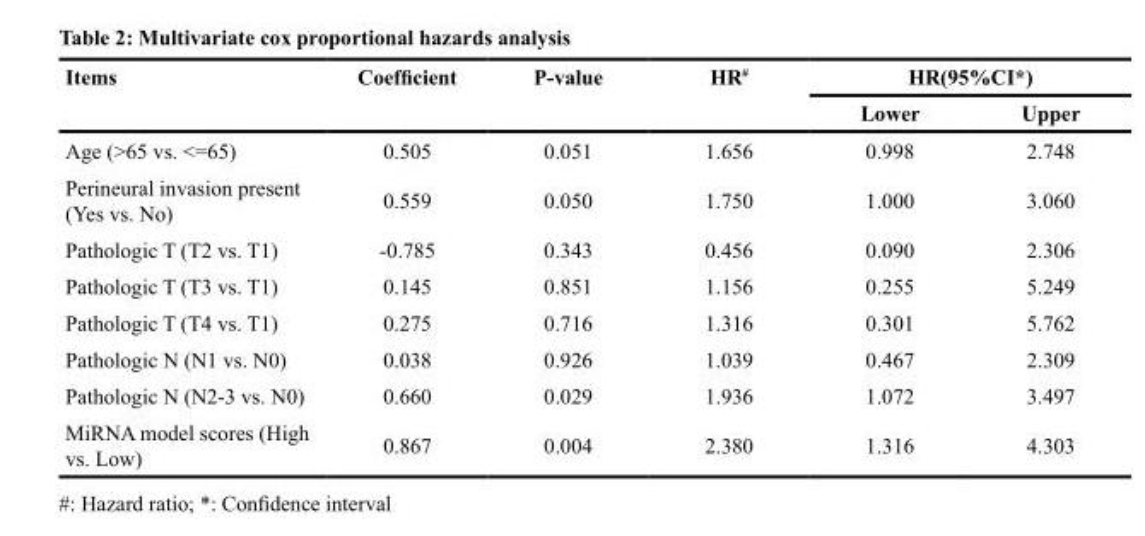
<table><thead><tr><td rowspan="2">Items</td><td rowspan="2">Coefficient</td><td rowspan="2">P-value</td><td rowspan="2">HR<sup>#</sup></td><td colspan="2">HR(95%CI*)</td></tr><tr><td>Lower</td><td>Upper</td></tr></thead><tbody><tr><td>Age (&gt;65 vs. &lt;=65)</td><td>0.505</td><td>0.051</td><td>1.656</td><td>0.998</td><td>2.748</td></tr><tr><td>Perineural invasion present (Yes vs. No)</td><td>0.559</td><td>0.050</td><td>1.750</td><td>1.000</td><td>3.060</td></tr><tr><td>Pathologic T (T2 vs. T1)</td><td>-0.785</td><td>0.343</td><td>0.456</td><td>0.090</td><td>2.306</td></tr><tr><td>Pathologic T (T3 vs. T1)</td><td>0.145</td><td>0.851</td><td>1.156</td><td>0.255</td><td>5.249</td></tr><tr><td>Pathologic T (T4 vs. T1)</td><td>0.275</td><td>0.716</td><td>1.316</td><td>0.301</td><td>5.762</td></tr><tr><td>Pathologic N (N1 vs. N0)</td><td>0.038</td><td>0.926</td><td>1.039</td><td>0.467</td><td>2.309</td></tr><tr><td>Pathologic N (N2-3 vs. N0)</td><td>0.660</td><td>0.029</td><td>1.936</td><td>1.072</td><td>3.497</td></tr><tr><td>MiRNA model scores (High vs. Low)</td><td>0.867</td><td>0.004</td><td>2.380</td><td>1.316</td><td>4.303</td></tr></tbody></table>